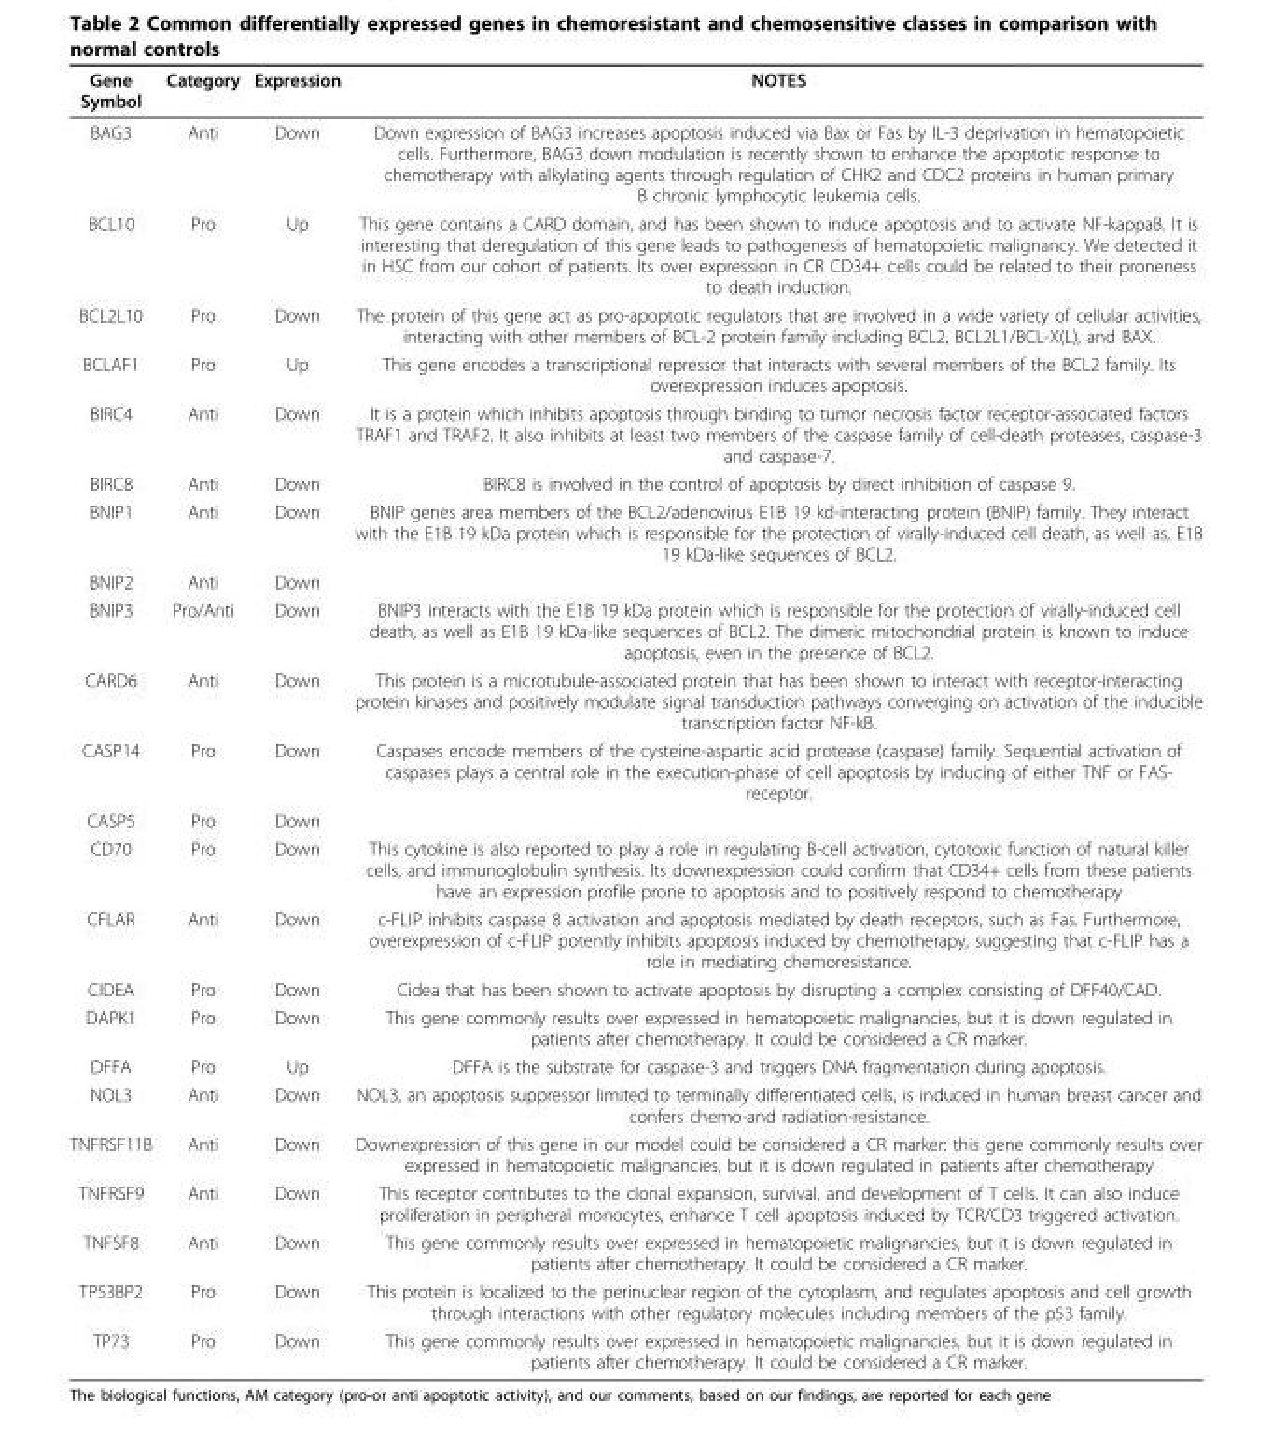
<table><thead><tr><td>Gene Symbol</td><td>Category</td><td>Expression</td><td>NOTES</td></tr></thead><tbody><tr><td>BAG3</td><td>Anti</td><td>Down</td><td>Down expression of BAG3 increases apoptosis induced via Bax or Fas by IL-3 deprivation in hematopoietic cells. Furthermore, BAG3 down modulation is recently shown to enhance the apoptotic response to chemotherapy with alkylating agents through regulation of CHK2 and CDC2 proteins in human primary B chronic lymphocytic leukemia cells.</td></tr><tr><td>BCL10</td><td>Pro</td><td>Up</td><td>This gene contains a CARD domain, and has been shown to induce apoptosis and to activate NF-kappaB. It is interesting that deregulation of this gene leads to pathogenesis of hematopoietic malignancy. We detected it in HSC from our cohort of patients. Its over expression in CR CD34+ cells could be related to their proneness to death induction.</td></tr><tr><td>BCL2L10</td><td>Pro</td><td>Down</td><td>The protein of this gene act as pro-apoptotic regulators that are involved in a wide variety of cellular activities, interacting with other members of BCL-2 protein family including BCL2, BCL2L1/BCL-X(L), and BAX.</td></tr><tr><td>BCLAF1</td><td>Pro</td><td>Up</td><td>This gene encodes a transcriptional repressor that interacts with several members of the BCL2 family. Its overexpression induces apoptosis.</td></tr><tr><td>BIRC4</td><td>Anti</td><td>Down</td><td>It is a protein which inhibits apoptosis through binding to tumor necrosis factor receptor-associated factors TRAF1 and TRAF2. It also inhibits at least two members of the caspase family of cell-death proteases, caspase-3 and caspase-7.</td></tr><tr><td>BIRC8</td><td>Anti</td><td>Down</td><td>BIRC8 is involved in the control of apoptosis by direct inhibition of caspase 9.</td></tr><tr><td>BNIP1</td><td>Anti</td><td>Down</td><td>BNIP genes area members of the BCL2/adenovirus E1B 19 kd-interacting protein (BNIP) family. They interact with the E1B 19 kDa protein which is responsible for the protection of virally-induced cell death, as well as, E1B 19 kDa-like sequences of BCL2.</td></tr><tr><td>BNIP2</td><td>Anti</td><td>Down</td><td></td></tr><tr><td>BNIP3</td><td>Pro/Anti</td><td>Down</td><td>BNIP3 interacts with the E1B 19 kDa protein which is responsible for the protection of virally-induced cell death, as well as E1B 19 kDa-like sequences of BCL2. The dimeric mitochondrial protein is known to induce apoptosis, even in the presence of BCL2.</td></tr><tr><td>CARD6</td><td>Anti</td><td>Down</td><td>This protein is a microtubule-associated protein that has been shown to interact with receptor-interacting protein kinases and positively modulate signal transduction pathways converging on activation of the inducible transcription factor NF-kB.</td></tr><tr><td>CASP14</td><td>Pro</td><td>Down</td><td>Caspases encode members of the cysteine-aspartic acid protease (caspase) family. Sequential activation of caspases plays a central role in the execution-phase of cell apoptosis by inducing of either TNF or FAS- receptor.</td></tr><tr><td>CASP5</td><td>Pro</td><td>Down</td><td></td></tr><tr><td>CD70</td><td>Pro</td><td>Down</td><td>This cytokine is also reported to play a role in regulating B-cell activation, cytotoxic function of natural killer cells, and immunoglobulin synthesis. Its downexpression could confirm that CD34+ cells from these patients have an expression profile prone to apoptosis and to positively respond to chemotherapy</td></tr><tr><td>CFLAR</td><td>Anti</td><td>Down</td><td>c-FLIP inhibits caspase 8 activation and apoptosis mediated by death receptors, such as Fas. Furthermore, overexpression of c-FLIP potently inhibits apoptosis induced by chemotherapy, suggesting that c-FLIP has a role in mediating chemoresistance.</td></tr><tr><td>CIDEA</td><td>Pro</td><td>Down</td><td>Cidea that has been shown to activate apoptosis by disrupting a complex consisting of DFF40/CAD.</td></tr><tr><td>DAPK1</td><td>Pro</td><td>Down</td><td>This gene commonly results over expressed in hematopoietic malignancies, but it is down regulated in patients after chemotherapy. It could be considered a CR marker.</td></tr><tr><td>DFFA</td><td>Pro</td><td>Up</td><td>DFFA is the substrate for caspase-3 and triggers DNA fragmentation during apoptosis.</td></tr><tr><td>NOL3</td><td>Anti</td><td>Down</td><td>NOL3, an apoptosis suppressor limited to terminally differentiated cells, is induced in human breast cancer and confers chemo-and radiation-resistance.</td></tr><tr><td>TNFRSF11B</td><td>Anti</td><td>Down</td><td>Downexpression of this gene in our model could be considered a CR marker: this gene commonly results over expressed in hematopoietic malignancies, but it is down regulated in patients after chemotherapy</td></tr><tr><td>TNFRSF9</td><td>Anti</td><td>Down</td><td>This receptor contributes to the clonal expansion, survival, and development of T cells. It can also induce proliferation in peripheral monocytes, enhance T cell apoptosis induced by TCR/CD3 triggered activation.</td></tr><tr><td>TNFSF8</td><td>Anti</td><td>Down</td><td>This gene commonly results over expressed in hematopoietic malignancies, but it is down regulated in patients after chemotherapy. It could be considered a CR marker.</td></tr><tr><td>TP53BP2</td><td>Pro</td><td>Down</td><td>This protein is localized to the perinuclear region of the cytoplasm, and regulates apoptosis and cell growth through interactions with other regulatory molecules including members of the p53 family.</td></tr><tr><td>TP73</td><td>Pro</td><td>Down</td><td>This gene commonly results over expressed in hematopoietic malignancies, but it is down regulated in patients after chemotherapy. It could be considered a CR marker.</td></tr></tbody></table>